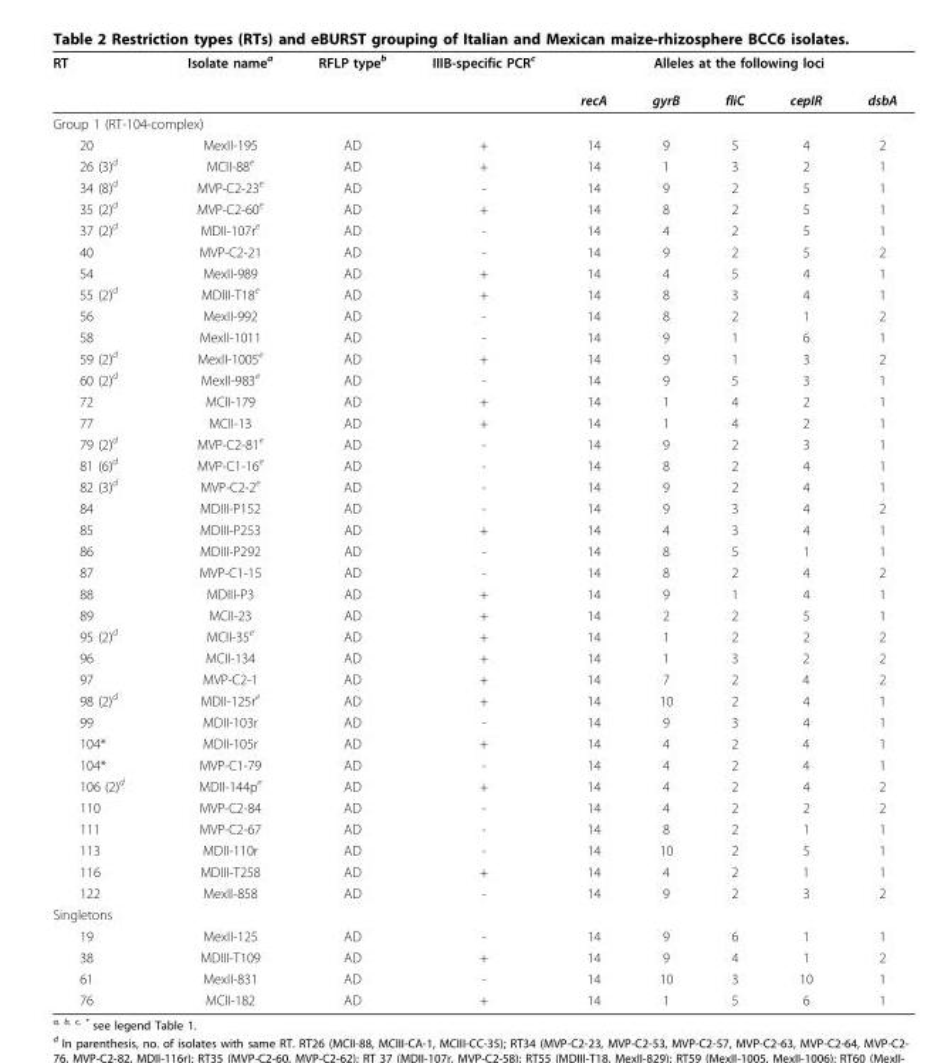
<table><thead><tr><td rowspan="2">RT</td><td rowspan="2">Isolate name<sup>a</sup></td><td rowspan="2">RFLP type<sup>b</sup></td><td rowspan="2">IIIB-specific PCR<sup>c</sup></td><td colspan="5">Alleles at the following loci</td></tr><tr><td>recA</td><td>gyrB</td><td>fliC</td><td>cepIR</td><td>dsbA</td></tr></thead><tbody><tr><td colspan="9">Group 1 (RT-104-complex)</td></tr><tr><td>20</td><td>MexII-195</td><td>AD</td><td>+</td><td>14</td><td>9</td><td>5</td><td>4</td><td>2</td></tr><tr><td>26 (3)<sup>d</sup></td><td>MCII-88<sup>e</sup></td><td>AD</td><td>+</td><td>14</td><td>1</td><td>3</td><td>2</td><td>1</td></tr><tr><td>34 (8)<sup>d</sup></td><td>MVP-C2-23<sup>e</sup></td><td>AD</td><td>-</td><td>14</td><td>9</td><td>2</td><td>5</td><td>1</td></tr><tr><td>35 (2)<sup>d</sup></td><td>MVP-C2-60<sup>e</sup></td><td>AD</td><td>+</td><td>14</td><td>8</td><td>2</td><td>5</td><td>1</td></tr><tr><td>37 (2)<sup>d</sup></td><td>MDII-107r<sup>e</sup></td><td>AD</td><td>-</td><td>14</td><td>4</td><td>2</td><td>5</td><td>1</td></tr><tr><td>40</td><td>MVP-C2-21</td><td>AD</td><td>-</td><td>14</td><td>9</td><td>2</td><td>5</td><td>2</td></tr><tr><td>54</td><td>MexII-989</td><td>AD</td><td>+</td><td>14</td><td>4</td><td>5</td><td>4</td><td>1</td></tr><tr><td>55 (2)<sup>d</sup></td><td>MDIII-T18<sup>e</sup></td><td>AD</td><td>+</td><td>14</td><td>8</td><td>3</td><td>4</td><td>1</td></tr><tr><td>56</td><td>MexII-992</td><td>AD</td><td>-</td><td>14</td><td>8</td><td>2</td><td>1</td><td>2</td></tr><tr><td>58</td><td>MexII-1011</td><td>AD</td><td>-</td><td>14</td><td>9</td><td>1</td><td>6</td><td>1</td></tr><tr><td>59 (2)<sup>d</sup></td><td>MexII-1005<sup>e</sup></td><td>AD</td><td>+</td><td>14</td><td>9</td><td>1</td><td>3</td><td>2</td></tr><tr><td>60 (2)<sup>d</sup></td><td>MexII-983<sup>e</sup></td><td>AD</td><td>-</td><td>14</td><td>9</td><td>5</td><td>3</td><td>1</td></tr><tr><td>72</td><td>MCII-179</td><td>AD</td><td>+</td><td>14</td><td>1</td><td>4</td><td>2</td><td>1</td></tr><tr><td>77</td><td>MCII-13</td><td>AD</td><td>+</td><td>14</td><td>1</td><td>4</td><td>2</td><td>1</td></tr><tr><td>79 (2)<sup>d</sup></td><td>MVP-C2-81<sup>e</sup></td><td>AD</td><td>-</td><td>14</td><td>9</td><td>2</td><td>3</td><td>1</td></tr><tr><td>81 (6)<sup>d</sup></td><td>MVP-C1-16<sup>e</sup></td><td>AD</td><td>-</td><td>14</td><td>8</td><td>2</td><td>4</td><td>1</td></tr><tr><td>82 (3)<sup>d</sup></td><td>MVP-C2-2<sup>e</sup></td><td>AD</td><td>-</td><td>14</td><td>9</td><td>2</td><td>4</td><td>1</td></tr><tr><td>84</td><td>MDIII-P152</td><td>AD</td><td>-</td><td>14</td><td>9</td><td>3</td><td>4</td><td>2</td></tr><tr><td>85</td><td>MDIII-P253</td><td>AD</td><td>+</td><td>14</td><td>4</td><td>3</td><td>4</td><td>1</td></tr><tr><td>86</td><td>MDIII-P292</td><td>AD</td><td>-</td><td>14</td><td>8</td><td>5</td><td>1</td><td>1</td></tr><tr><td>87</td><td>MVP-C1-15</td><td>AD</td><td>-</td><td>14</td><td>8</td><td>2</td><td>4</td><td>2</td></tr><tr><td>88</td><td>MDIII-P3</td><td>AD</td><td>+</td><td>14</td><td>9</td><td>1</td><td>4</td><td>1</td></tr><tr><td>89</td><td>MCII-23</td><td>AD</td><td>+</td><td>14</td><td>2</td><td>2</td><td>5</td><td>1</td></tr><tr><td>95 (2)<sup>d</sup></td><td>MCII-35<sup>e</sup></td><td>AD</td><td>+</td><td>14</td><td>1</td><td>2</td><td>2</td><td>2</td></tr><tr><td>96</td><td>MCII-134</td><td>AD</td><td>+</td><td>14</td><td>1</td><td>3</td><td>2</td><td>2</td></tr><tr><td>97</td><td>MVP-C2-1</td><td>AD</td><td>+</td><td>14</td><td>7</td><td>2</td><td>4</td><td>2</td></tr><tr><td>98 (2)<sup>d</sup></td><td>MDII-125r<sup>e</sup></td><td>AD</td><td>+</td><td>14</td><td>10</td><td>2</td><td>4</td><td>1</td></tr><tr><td>99</td><td>MDII-103r</td><td>AD</td><td>-</td><td>14</td><td>9</td><td>3</td><td>4</td><td>1</td></tr><tr><td>104*</td><td>MDII-105r</td><td>AD</td><td>+</td><td>14</td><td>4</td><td>2</td><td>4</td><td>1</td></tr><tr><td>104*</td><td>MVP-C1-79</td><td>AD</td><td>-</td><td>14</td><td>4</td><td>2</td><td>4</td><td>1</td></tr><tr><td>106 (2)<sup>d</sup></td><td>MDII-144p<sup>e</sup></td><td>AD</td><td>+</td><td>14</td><td>4</td><td>2</td><td>4</td><td>2</td></tr><tr><td>110</td><td>MVP-C2-84</td><td>AD</td><td>-</td><td>14</td><td>4</td><td>2</td><td>2</td><td>2</td></tr><tr><td>111</td><td>MVP-C2-67</td><td>AD</td><td>-</td><td>14</td><td>8</td><td>2</td><td>1</td><td>1</td></tr><tr><td>113</td><td>MDII-110r</td><td>AD</td><td>-</td><td>14</td><td>10</td><td>2</td><td>5</td><td>1</td></tr><tr><td>116</td><td>MDIII-T258</td><td>AD</td><td>+</td><td>14</td><td>4</td><td>2</td><td>1</td><td>1</td></tr><tr><td>122</td><td>MexII-858</td><td>AD</td><td>-</td><td>14</td><td>9</td><td>2</td><td>3</td><td>2</td></tr><tr><td colspan="9">Singletons</td></tr><tr><td>19</td><td>MexII-125</td><td>AD</td><td>-</td><td>14</td><td>9</td><td>6</td><td>1</td><td>1</td></tr><tr><td>38</td><td>MDIII-T109</td><td>AD</td><td>+</td><td>14</td><td>9</td><td>4</td><td>1</td><td>2</td></tr><tr><td>61</td><td>MexII-831</td><td>AD</td><td>-</td><td>14</td><td>10</td><td>3</td><td>10</td><td>1</td></tr><tr><td>76</td><td>MCII-182</td><td>AD</td><td>+</td><td>14</td><td>1</td><td>5</td><td>6</td><td>1</td></tr></tbody></table>